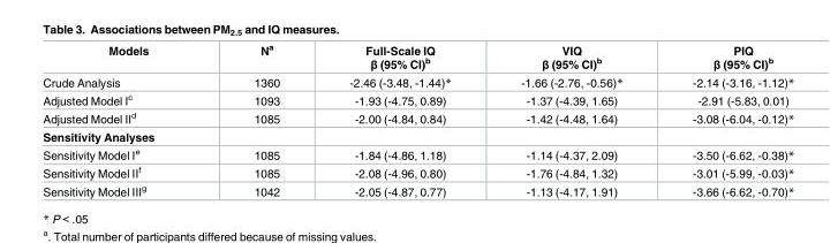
<table><thead><tr><td>Models</td><td>N<sup>a</sup></td><td>Full-Scale IQ β (95% CI)<sup>b</sup></td><td>VIQ β (95% CI)<sup>b</sup></td><td>PIQ β (95% CI)<sup>b</sup></td></tr></thead><tbody><tr><td>Crude Analysis</td><td>1360</td><td>-2.46 (-3.48, -1.44)*</td><td>-1.66 (-2.76, -0.56)*</td><td>-2.14 (-3.16, -1.12)*</td></tr><tr><td>Adjusted Model I<sup>c</sup></td><td>1093</td><td>-1.93 (-4.75, 0.89)</td><td>-1.37 (-4.39, 1.65)</td><td>-2.91 (-5.83, 0.01)</td></tr><tr><td>Adjusted Model II<sup>d</sup></td><td>1085</td><td>-2.00 (-4.84, 0.84)</td><td>-1.42 (-4.48, 1.64)</td><td>-3.08 (-6.04, -0.12)*</td></tr><tr><td colspan="5">Sensitivity Analyses</td></tr><tr><td>Sensitivity Model I<sup>e</sup></td><td>1085</td><td>-1.84 (-4.86, 1.18)</td><td>-1.14 (-4.37, 2.09)</td><td>-3.50 (-6.62, -0.38)*</td></tr><tr><td>Sensitivity Model II<sup>f</sup></td><td>1085</td><td>-2.08 (-4.96, 0.80)</td><td>-1.76 (-4.84, 1.32)</td><td>-3.01 (-5.99, -0.03)*</td></tr><tr><td>Sensitivity Model III<sup>g</sup></td><td>1042</td><td>-2.05 (-4.87, 0.77)</td><td>-1.13 (-4.17, 1.91)</td><td>-3.66 (-6.62, -0.70)*</td></tr></tbody></table>